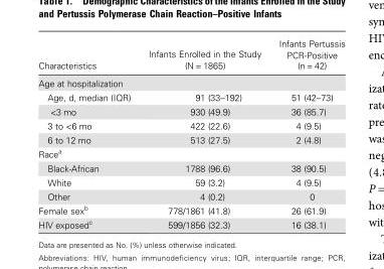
<table><thead><tr><td>Characteristics</td><td>Infants Enrolled in the Study (N = 1865)</td><td>Infants Pertussis PCR-Positive (n = 42)</td></tr></thead><tbody><tr><td colspan="3">Age at hospitalization</td></tr><tr><td>Age, d, median (IQR)</td><td>91 (33–192)</td><td>51 (42–73)</td></tr><tr><td>&lt;3 mo</td><td>930 (49.9)</td><td>36 (85.7)</td></tr><tr><td>3 to &lt;6 mo</td><td>422 (22.6)</td><td>4 (9.5)</td></tr><tr><td>6 to 12 mo</td><td>513 (27.5)</td><td>2 (4.8)</td></tr><tr><td colspan="3">Race<sup>a</sup></td></tr><tr><td>Black-African</td><td>1788 (96.6)</td><td>38 (90.5)</td></tr><tr><td>White</td><td>59 (3.2)</td><td>4 (9.5)</td></tr><tr><td>Other</td><td>4 (0.2)</td><td>0</td></tr><tr><td>Female sex<sup>b</sup></td><td>778/1861 (41.8)</td><td>26 (61.9)</td></tr><tr><td>HIV exposed<sup>c</sup></td><td>599/1856 (32.3)</td><td>16 (38.1)</td></tr></tbody></table>